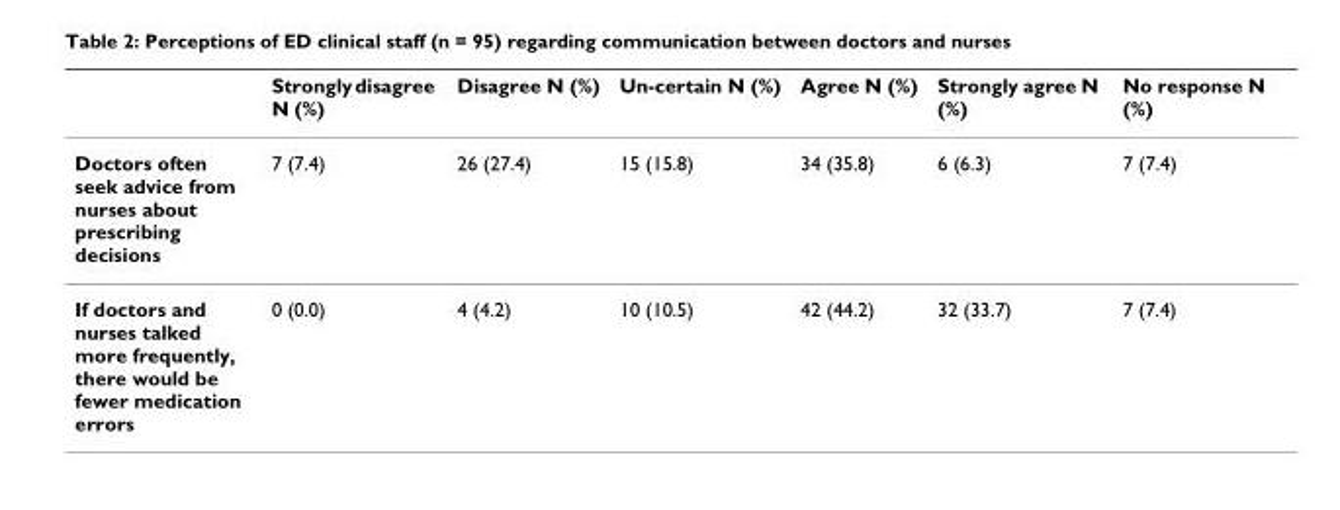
<table><thead><tr><td></td><td>Strongly disagree N (%)</td><td>Disagree N (%)</td><td>Un-certain N (%)</td><td>Agree N (%)</td><td>Strongly agree N (%)</td><td>No response N (%)</td></tr></thead><tbody><tr><td>Doctors often seek advice from nurses about prescribing decisions</td><td>7 (7.4)</td><td>26 (27.4)</td><td>15 (15.8)</td><td>34 (35.8)</td><td>6 (6.3)</td><td>7 (7.4)</td></tr><tr><td>If doctors and nurses talked more frequently, there would be fewer medication errors</td><td>0 (0.0)</td><td>4 (4.2)</td><td>10 (10.5)</td><td>42 (44.2)</td><td>32 (33.7)</td><td>7 (7.4)</td></tr></tbody></table>